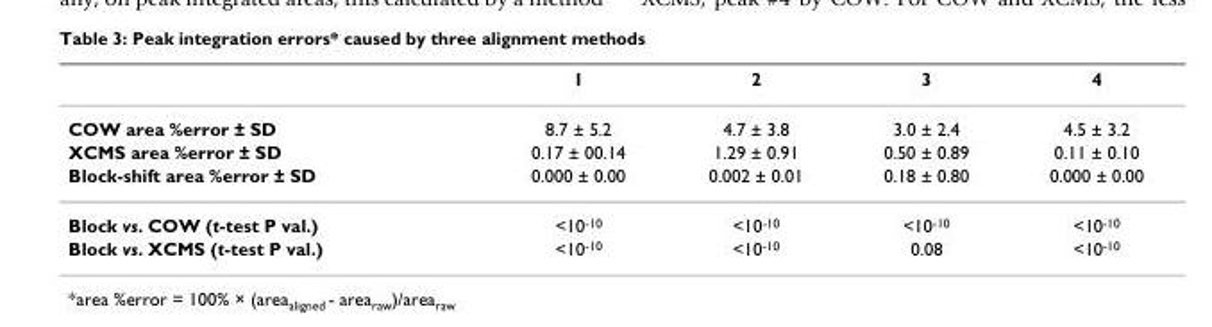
<table><thead><tr><td></td><td>1</td><td>2</td><td>3</td><td>4</td></tr></thead><tbody><tr><td>COW area %error ± SD</td><td>8.7 ± 5.2</td><td>4.7 ± 3.8</td><td>3.0 ± 2.4</td><td>4.5 ± 3.2</td></tr><tr><td>XCMS area %error ± SD</td><td>0.17 ± 00.14</td><td>1.29 ± 0.91</td><td>0.50 ± 0.89</td><td>0.11 ± 0.10</td></tr><tr><td>Block-shift area %error ± SD</td><td>0.000 ± 0.00</td><td>0.002 ± 0.01</td><td>0.18 ± 0.80</td><td>0.000 ± 0.00</td></tr><tr><td>Block vs. COW (t-test P val.)</td><td>&lt;10<sup>-10</sup></td><td>&lt;10<sup>-10</sup></td><td>&lt;10<sup>-10</sup></td><td>&lt;10<sup>-10</sup></td></tr><tr><td>Block vs. XCMS (t-test P val.)</td><td>&lt;10<sup>-10</sup></td><td>&lt;10<sup>-10</sup></td><td>0.08</td><td>&lt;10<sup>-10</sup></td></tr></tbody></table>